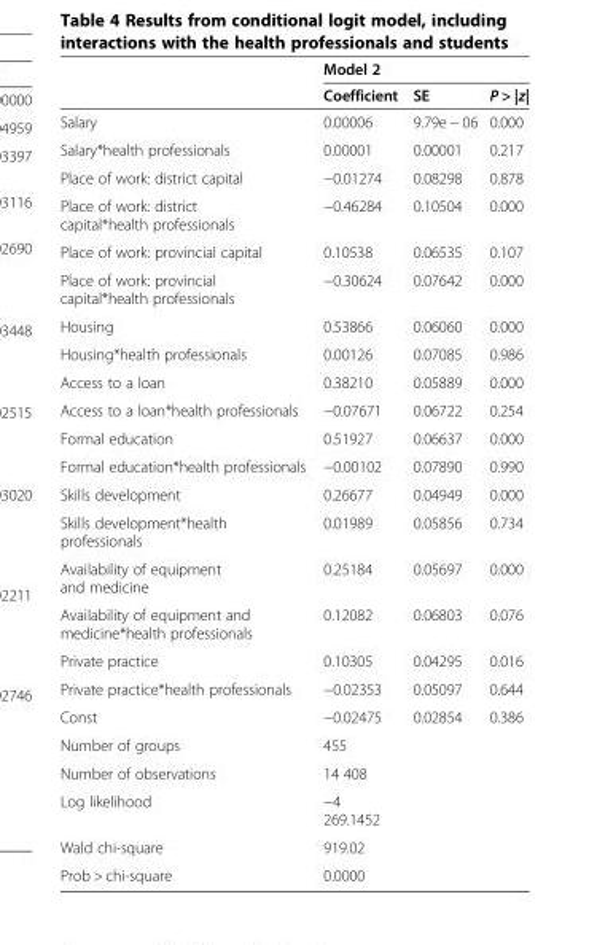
<table><thead><tr><td rowspan="2"></td><td colspan="3">Model 2</td></tr><tr><td>Coefficient</td><td>SE</td><td>P &gt; |z|</td></tr></thead><tbody><tr><td>Salary</td><td>0.00006</td><td>9.79e − 06</td><td>0.000</td></tr><tr><td>Salary*health professionals</td><td>0.00001</td><td>0.00001</td><td>0.217</td></tr><tr><td>Place of work: district capital</td><td>−0.01274</td><td>0.08298</td><td>0.878</td></tr><tr><td>Place of work: district capital*health professionals</td><td>−0.46284</td><td>0.10504</td><td>0.000</td></tr><tr><td>Place of work: provincial capital</td><td>0.10538</td><td>0.06535</td><td>0.107</td></tr><tr><td>Place of work: provincial capital*health professionals</td><td>−0.30624</td><td>0.07642</td><td>0.000</td></tr><tr><td>Housing</td><td>0.53866</td><td>0.06060</td><td>0.000</td></tr><tr><td>Housing*health professionals</td><td>0.00126</td><td>0.07085</td><td>0.986</td></tr><tr><td>Access to a loan</td><td>0.38210</td><td>0.05889</td><td>0.000</td></tr><tr><td>Access to a loan*health professionals</td><td>−0.07671</td><td>0.06722</td><td>0.254</td></tr><tr><td>Formal education</td><td>0.51927</td><td>0.06637</td><td>0.000</td></tr><tr><td>Formal education*health professionals</td><td>−0.00102</td><td>0.07890</td><td>0.990</td></tr><tr><td>Skills development</td><td>0.26677</td><td>0.04949</td><td>0.000</td></tr><tr><td>Skills development*health professionals</td><td>0.01989</td><td>0.05856</td><td>0.734</td></tr><tr><td>Availability of equipment and medicine</td><td>0.25184</td><td>0.05697</td><td>0.000</td></tr><tr><td>Availability of equipment and medicine*health professionals</td><td>0.12082</td><td>0.06803</td><td>0.076</td></tr><tr><td>Private practice</td><td>0.10305</td><td>0.04295</td><td>0.016</td></tr><tr><td>Private practice*health professionals</td><td>−0.02353</td><td>0.05097</td><td>0.644</td></tr><tr><td>Const</td><td>−0.02475</td><td>0.02854</td><td>0.386</td></tr><tr><td>Number of groups</td><td>455</td><td></td><td></td></tr><tr><td>Number of observations</td><td>14 408</td><td></td><td></td></tr><tr><td>Log likelihood</td><td>−4 269.1452</td><td></td><td></td></tr><tr><td>Wald chi-square</td><td>919.02</td><td></td><td></td></tr><tr><td>Prob &gt; chi-square</td><td>0.0000</td><td></td><td></td></tr></tbody></table>